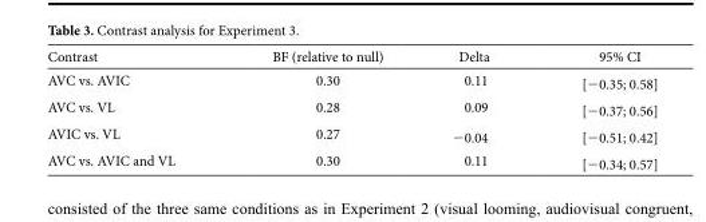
<table><thead><tr><td>Contrast</td><td>BF (relative to null)</td><td>Delta</td><td>95% CI</td></tr></thead><tbody><tr><td>AVC vs. AVIC</td><td>0.30</td><td>0.11</td><td>[−0.35; 0.58]</td></tr><tr><td>AVC vs. VL</td><td>0.28</td><td>0.09</td><td>[−0.37; 0.56]</td></tr><tr><td>AVIC vs. VL</td><td>0.27</td><td>−0.04</td><td>[−0.51; 0.42]</td></tr><tr><td>AVC vs. AVIC and VL</td><td>0.30</td><td>0.11</td><td>[−0.34; 0.57]</td></tr></tbody></table>